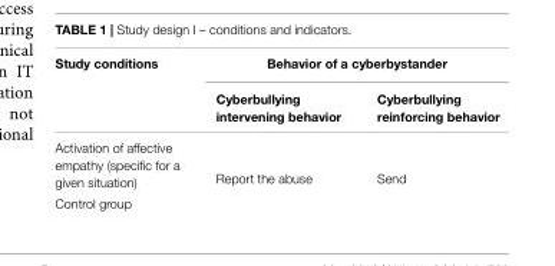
<table><thead><tr><td rowspan="2">Study conditions</td><td colspan="2">Behavior of a cyberbystander</td></tr><tr><td>Cyberbullying intervening behavior</td><td>Cyberbullying reinforcing behavior</td></tr></thead><tbody><tr><td>Activation of affective empathy (specific for a given situation)</td><td rowspan="2">Report the abuse</td><td rowspan="2">Send</td></tr><tr><td>Control group</td></tr></tbody></table>